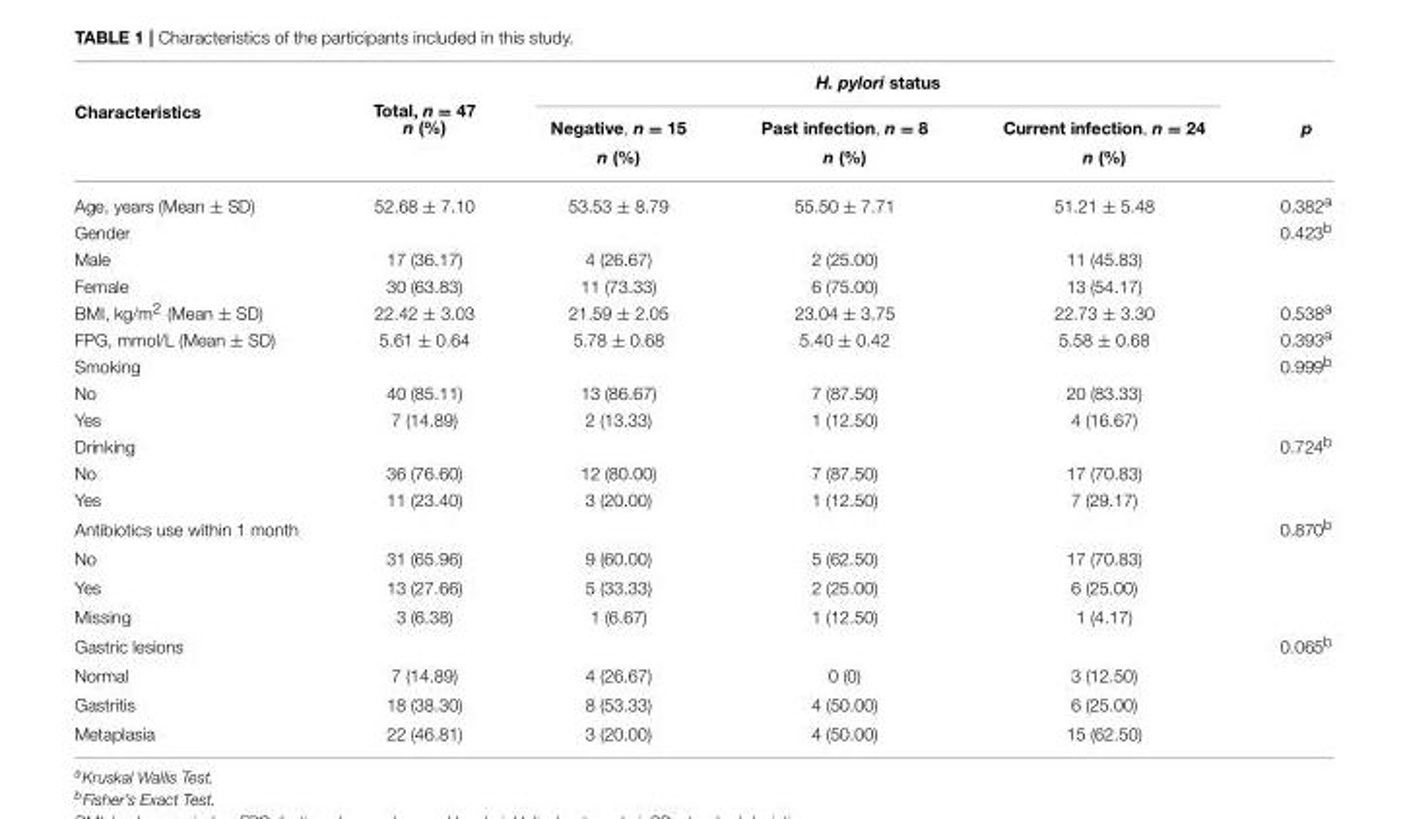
<table><thead><tr><td rowspan="3">Characteristics</td><td rowspan="3">Total, n = 47 n (%)</td><td colspan="3">H. pylori status</td><td rowspan="3">p</td></tr><tr><td rowspan="2">Negative, n = 15 n (%)</td><td rowspan="2">Past infection, n = 8 n (%)</td><td rowspan="2">Current infection, n = 24 n (%)</td></tr><tr></tr></thead><tbody><tr><td>Age, years (Mean ± SD)</td><td>52.68 ± 7.10</td><td>53.53 ± 8.79</td><td>55.50 ± 7.71</td><td>51.21 ± 5.48</td><td>0.382<sup>a</sup></td></tr><tr><td>Gender</td><td></td><td></td><td></td><td></td><td>0.423<sup>b</sup></td></tr><tr><td>Male</td><td>17 (36.17)</td><td>4 (26.67)</td><td>2 (25.00)</td><td>11 (45.83)</td><td></td></tr><tr><td>Female</td><td>30 (63.83)</td><td>11 (73.33)</td><td>6 (75.00)</td><td>13 (54.17)</td><td></td></tr><tr><td>BMI, kg/m<sup>2</sup> (Mean ± SD)</td><td>22.42 ± 3.03</td><td>21.59 ± 2.05</td><td>23.04 ± 3.75</td><td>22.73 ± 3.30</td><td>0.538<sup>a</sup></td></tr><tr><td>FPG, mmol/L (Mean ± SD)</td><td>5.61 ± 0.64</td><td>5.78 ± 0.68</td><td>5.40 ± 0.42</td><td>5.58 ± 0.68</td><td>0.393<sup>a</sup></td></tr><tr><td>Smoking</td><td></td><td></td><td></td><td></td><td>0.999<sup>b</sup></td></tr><tr><td>No</td><td>40 (85.11)</td><td>13 (86.67)</td><td>7 (87.50)</td><td>20 (83.33)</td><td></td></tr><tr><td>Yes</td><td>7 (14.89)</td><td>2 (13.33)</td><td>1 (12.50)</td><td>4 (16.67)</td><td></td></tr><tr><td>Drinking</td><td></td><td></td><td></td><td></td><td>0.724<sup>b</sup></td></tr><tr><td>No</td><td>36 (76.60)</td><td>12 (80.00)</td><td>7 (87.50)</td><td>17 (70.83)</td><td></td></tr><tr><td>Yes</td><td>11 (23.40)</td><td>3 (20.00)</td><td>1 (12.50)</td><td>7 (29.17)</td><td></td></tr><tr><td>Antibiotics use within 1 month</td><td></td><td></td><td></td><td></td><td>0.870<sup>b</sup></td></tr><tr><td>No</td><td>31 (65.96)</td><td>9 (60.00)</td><td>5 (62.50)</td><td>17 (70.83)</td><td></td></tr><tr><td>Yes</td><td>13 (27.66)</td><td>5 (33.33)</td><td>2 (25.00)</td><td>6 (25.00)</td><td></td></tr><tr><td>Missing</td><td>3 (6.38)</td><td>1 (6.67)</td><td>1 (12.50)</td><td>1 (4.17)</td><td></td></tr><tr><td>Gastric lesions</td><td></td><td></td><td></td><td></td><td>0.065<sup>b</sup></td></tr><tr><td>Normal</td><td>7 (14.89)</td><td>4 (26.67)</td><td>0 (0)</td><td>3 (12.50)</td><td></td></tr><tr><td>Gastritis</td><td>18 (38.30)</td><td>8 (53.33)</td><td>4 (50.00)</td><td>6 (25.00)</td><td></td></tr><tr><td>Metaplasia</td><td>22 (46.81)</td><td>3 (20.00)</td><td>4 (50.00)</td><td>15 (62.50)</td><td></td></tr></tbody></table>